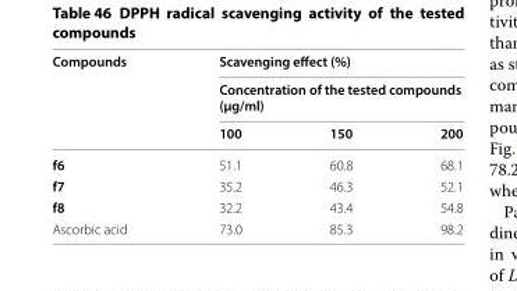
<table><thead><tr><td rowspan="3">Compounds</td><td rowspan="2" colspan="3">Scavenging effect (%) Concentration of the tested compounds (µg/ml)</td></tr><tr></tr><tr><td>100</td><td>150</td><td>200</td></tr></thead><tbody><tr><td>f6</td><td>51.1</td><td>60.8</td><td>68.1</td></tr><tr><td>f7</td><td>35.2</td><td>46.3</td><td>52.1</td></tr><tr><td>f8</td><td>32.2</td><td>43.4</td><td>54.8</td></tr><tr><td>Ascorbic acid</td><td>73.0</td><td>85.3</td><td>98.2</td></tr></tbody></table>